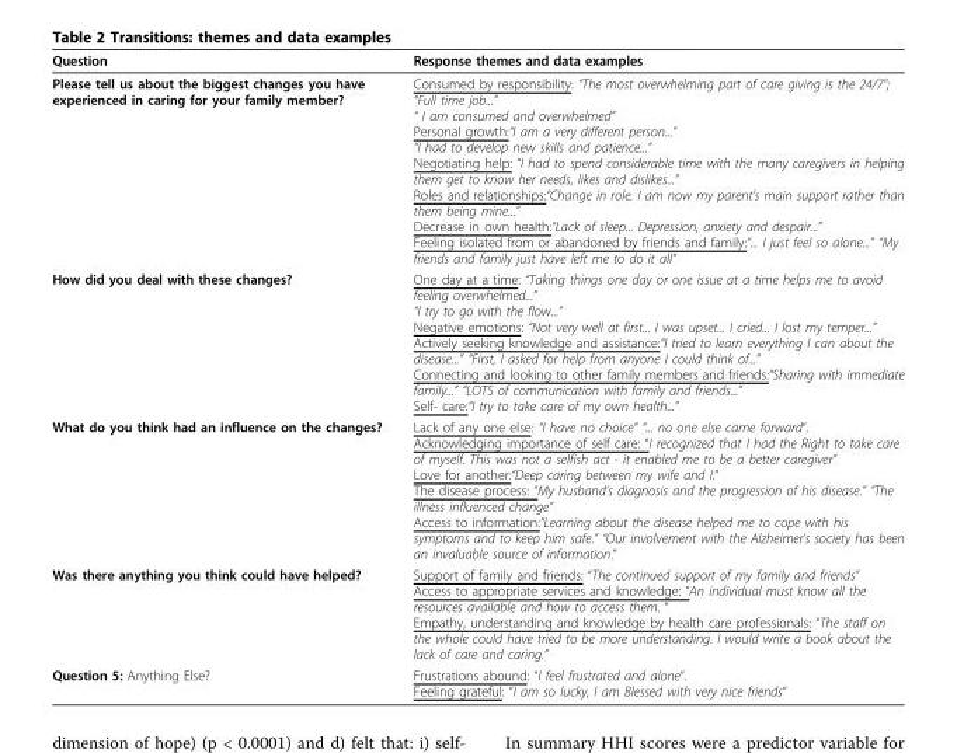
<table><thead><tr><td>Question</td><td>Response themes and data examples</td></tr></thead><tbody><tr><td>Please tell us about the biggest changes you have experienced in caring for your family member?</td><td>Consumed by responsibility: “The most overwhelming part of care giving is the 24/7&quot;; “Full time job...” “ I am consumed and overwhelmed” Personal growth:“I am a very different person...” “I had to develop new skills and patience...” Negotiating help: “I had to spend considerable time with the many caregivers in helping them get to know her needs, likes and dislikes...” Roles and relationships:“Change in role. I am now my parent’s main support rather than them being mine...” Decrease in own health:“Lack of sleep... Depression, anxiety and despair...” Feeling isolated from or abandoned by friends and family:“... I just feel so alone...” “My friends and family just have left me to do it all”</td></tr><tr><td>How did you deal with these changes?</td><td>One day at a time: “Taking things one day or one issue at a time helps me to avoid feeling overwhelmed...” “I try to go with the flow...” Negative emotions: “Not very well at first... I was upset... I cried... I lost my temper...” Actively seeking knowledge and assistance:“I tried to learn everything I can about the disease...” “First, I asked for help from anyone I could think of...” Connecting and looking to other family members and friends:“Sharing with immediate family...” “LOTS of communication with family and friends...” Self- care:“I try to take care of my own health...”</td></tr><tr><td>What do you think had an influence on the changes?</td><td>Lack of any one else: “I have no choice” “... no one else came forward“. Acknowledging importance of self care: “I recognized that I had the Right to take care of myself. This was not a selfish act - it enabled me to be a better caregiver” Love for another:“Deep caring between my wife and I.” The disease process: “My husband’s diagnosis and the progression of his disease.” “The illness influenced change” Access to information:“Learning about the disease helped me to cope with his symptoms and to keep him safe.” “Our involvement with the Alzheimer’s society has been an invaluable source of information.”</td></tr><tr><td>Was there anything you think could have helped?</td><td>Support of family and friends: “The continued support of my family and friends” Access to appropriate services and knowledge: “An individual must know all the resources available and how to access them. “ Empathy, understanding and knowledge by health care professionals: “The staff on the whole could have tried to be more understanding. I would write a book about the lack of care and caring.”</td></tr><tr><td>Question 5: Anything Else?</td><td>Frustrations abound: “I feel frustrated and alone“. Feeling grateful: “I am so lucky, I am Blessed with very nice friends“</td></tr></tbody></table>